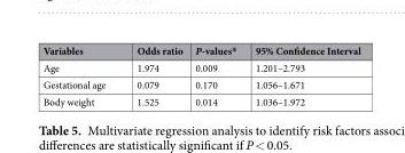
<table><thead><tr><td>Variables</td><td>Odds ratio</td><td>P-values*</td><td>95% Confidence Interval</td></tr></thead><tbody><tr><td>Age</td><td>1.974</td><td>0.009</td><td>1.201–2.793</td></tr><tr><td>Gestational age</td><td>0.079</td><td>0.170</td><td>1.056–1.671</td></tr><tr><td>Body weight</td><td>1.525</td><td>0.014</td><td>1.036–1.972</td></tr></tbody></table>